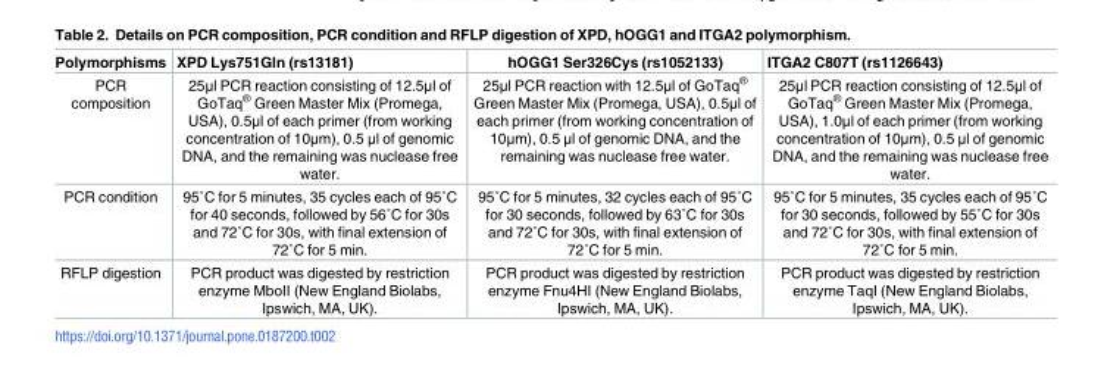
<table><thead><tr><td>Polymorphisms</td><td>XPD Lys751Gln (rs13181)</td><td>hOGG1 Ser326Cys (rs1052133)</td><td>ITGA2 C807T (rs1126643)</td></tr></thead><tbody><tr><td>PCR composition</td><td>25μl PCR reaction consisting of 12.5μl of GoTaq<sup>®</sup> Green Master Mix (Promega, USA), 0.5μl of each primer (from working concentration of 10μm), 0.5 μl of genomic DNA, and the remaining was nuclease free water.</td><td>25μl PCR reaction with 12.5μl of GoTaq<sup>®</sup> Green Master Mix (Promega, USA), 0.5μl of each primer (from working concentration of 10μm), 0.5 μl of genomic DNA, and the remaining was nuclease free water.</td><td>25μl PCR reaction consisting of 12.5μl of GoTaq<sup>®</sup> Green Master Mix (Promega, USA), 1.0μl of each primer (from working concentration of 10μm), 0.5 μl of genomic DNA, and the remaining was nuclease free water.</td></tr><tr><td>PCR condition</td><td>95˚C for 5 minutes, 35 cycles each of 95˚C for 40 seconds, followed by 56˚C for 30s and 72˚C for 30s, with final extension of 72˚C for 5 min.</td><td>95˚C for 5 minutes, 32 cycles each of 95˚C for 30 seconds, followed by 63˚C for 30s and 72˚C for 30s, with final extension of 72˚C for 5 min.</td><td>95˚C for 5 minutes, 35 cycles each of 95˚C for 30 seconds, followed by 55˚C for 30s and 72˚C for 30s, with final extension of 72˚C for 5 min.</td></tr><tr><td>RFLP digestion</td><td>PCR product was digested by restriction enzyme MboII (New England Biolabs, Ipswich, MA, UK).</td><td>PCR product was digested by restriction enzyme Fnu4HI (New England Biolabs, Ipswich, MA, UK).</td><td>PCR product was digested by restriction enzyme TaqI (New England Biolabs, Ipswich, MA, UK).</td></tr></tbody></table>